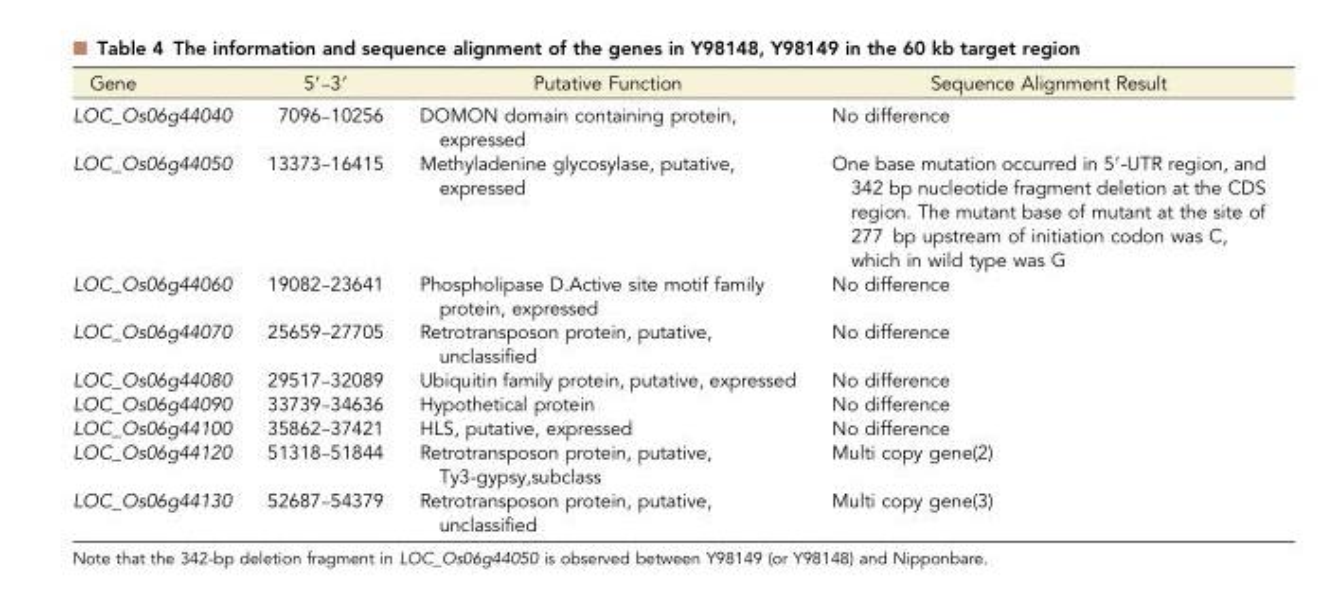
<table><thead><tr><td>Gene</td><td>5′–3′</td><td>Putative Function</td><td>Sequence Alignment Result</td></tr></thead><tbody><tr><td>LOC_Os06g44040</td><td>7096–10256</td><td>DOMON domain containing protein, expressed</td><td>No difference</td></tr><tr><td>LOC_Os06g44050</td><td>13373–16415</td><td>Methyladenine glycosylase, putative, expressed</td><td>One base mutation occurred in 5′-UTR region, and 342 bp nucleotide fragment deletion at the CDS region. The mutant base of mutant at the site of 277 bp upstream of initiation codon was C, which in wild type was G</td></tr><tr><td>LOC_Os06g44060</td><td>19082–23641</td><td>Phospholipase D.Active site motif family protein, expressed</td><td>No difference</td></tr><tr><td>LOC_Os06g44070</td><td>25659–27705</td><td>Retrotransposon protein, putative, unclassified</td><td>No difference</td></tr><tr><td>LOC_Os06g44080</td><td>29517–32089</td><td>Ubiquitin family protein, putative, expressed</td><td>No difference</td></tr><tr><td>LOC_Os06g44090</td><td>33739–34636</td><td>Hypothetical protein</td><td>No difference</td></tr><tr><td>LOC_Os06g44100</td><td>35862–37421</td><td>HLS, putative, expressed</td><td>No difference</td></tr><tr><td>LOC_Os06g44120</td><td>51318–51844</td><td>Retrotransposon protein, putative, Ty3-gypsy,subclass</td><td>Multi copy gene(2)</td></tr><tr><td>LOC_Os06g44130</td><td>52687–54379</td><td>Retrotransposon protein, putative, unclassified</td><td>Multi copy gene(3)</td></tr></tbody></table>